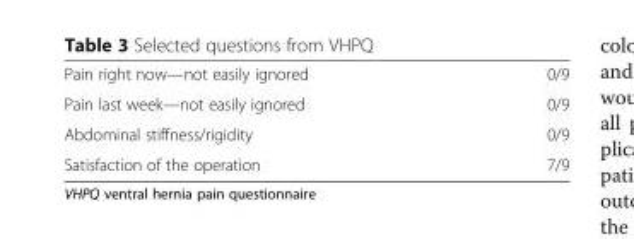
<table><tbody><tr><td>Pain right now—not easily ignored</td><td>0/9</td></tr><tr><td>Pain last week—not easily ignored</td><td>0/9</td></tr><tr><td>Abdominal stiffness/rigidity</td><td>0/9</td></tr><tr><td>Satisfaction of the operation</td><td>7/9</td></tr></tbody></table>